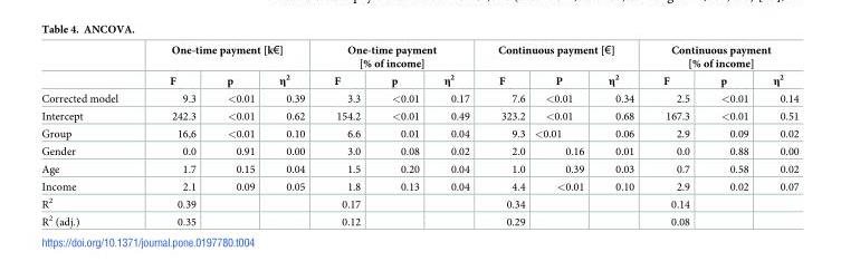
<table><thead><tr><td rowspan="2"></td><td colspan="3">One-time payment [k€]</td><td colspan="3">One-time payment [% of income]</td><td colspan="3">Continuous payment [€]</td><td colspan="3">Continuous payment [% of income]</td></tr><tr><td>F</td><td>p</td><td>η<sup>2</sup></td><td>F</td><td>p</td><td>η<sup>2</sup></td><td>F</td><td>P</td><td>η<sup>2</sup></td><td>F</td><td>p</td><td>η<sup>2</sup></td></tr></thead><tbody><tr><td>Corrected model</td><td>9.3</td><td>&lt;0.01</td><td>0.39</td><td>3.3</td><td>&lt;0.01</td><td>0.17</td><td>7.6</td><td>&lt;0.01</td><td>0.34</td><td>2.5</td><td>&lt;0.01</td><td>0.14</td></tr><tr><td>Intercept</td><td>242.3</td><td>&lt;0.01</td><td>0.62</td><td>154.2</td><td>&lt;0.01</td><td>0.49</td><td>323.2</td><td>&lt;0.01</td><td>0.68</td><td>167.3</td><td>&lt;0.01</td><td>0.51</td></tr><tr><td>Group</td><td>16,6</td><td>&lt;0.01</td><td>0.10</td><td>6.6</td><td>0.01</td><td>0.04</td><td>9.3</td><td>&lt;0.01</td><td>0.06</td><td>2.9</td><td>0.09</td><td>0.02</td></tr><tr><td>Gender</td><td>0.0</td><td>0.91</td><td>0.00</td><td>3.0</td><td>0.08</td><td>0.02</td><td>2.0</td><td>0.16</td><td>0.01</td><td>0.0</td><td>0.88</td><td>0.00</td></tr><tr><td>Age</td><td>1.7</td><td>0.15</td><td>0.04</td><td>1.5</td><td>0.20</td><td>0.04</td><td>1.0</td><td>0.39</td><td>0.03</td><td>0.7</td><td>0.58</td><td>0.02</td></tr><tr><td>Income</td><td>2.1</td><td>0.09</td><td>0.05</td><td>1.8</td><td>0.13</td><td>0.04</td><td>4.4</td><td>&lt;0.01</td><td>0.10</td><td>2.9</td><td>0.02</td><td>0.07</td></tr><tr><td>R<sup>2</sup></td><td>0.39</td><td></td><td></td><td>0.17</td><td></td><td></td><td>0.34</td><td></td><td></td><td>0.14</td><td></td><td></td></tr><tr><td>R<sup>2</sup> (adj.)</td><td>0.35</td><td></td><td></td><td>0.12</td><td></td><td></td><td>0.29</td><td></td><td></td><td>0.08</td><td></td><td></td></tr></tbody></table>